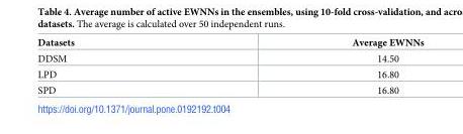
<table><thead><tr><td>Datasets</td><td>Average EWNNs</td></tr></thead><tbody><tr><td>DDSM</td><td>14.50</td></tr><tr><td>LPD</td><td>16.80</td></tr><tr><td>SPD</td><td>16.80</td></tr></tbody></table>